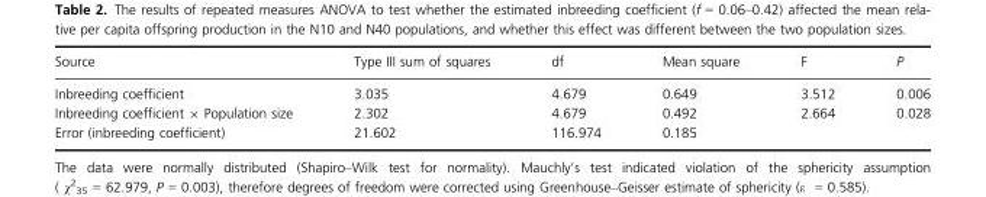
<table><thead><tr><td>Source</td><td>Type III sum of squares</td><td>df</td><td>Mean square</td><td>F</td><td>P</td></tr></thead><tbody><tr><td>Inbreeding coefficient</td><td>3.035</td><td>4.679</td><td>0.649</td><td>3.512</td><td>0.006</td></tr><tr><td>Inbreeding coefficient × Population size</td><td>2.302</td><td>4.679</td><td>0.492</td><td>2.664</td><td>0.028</td></tr><tr><td>Error (inbreeding coefficient)</td><td>21.602</td><td>116.974</td><td>0.185</td><td></td><td></td></tr></tbody></table>